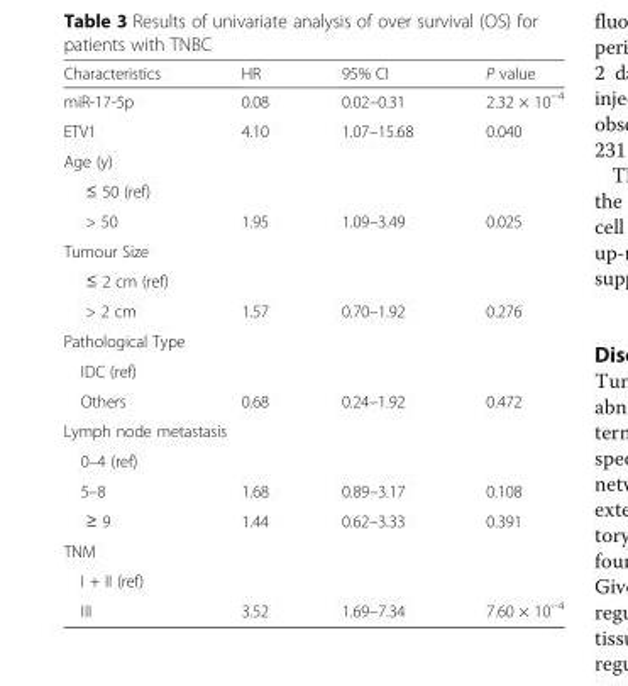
<table><thead><tr><td>Characteristics</td><td>HR</td><td>95% CI</td><td>P value</td></tr></thead><tbody><tr><td>miR-17-5p</td><td>0.08</td><td>0.02–0.31</td><td>2.32 × 10<sup>−4</sup></td></tr><tr><td>ETV1</td><td>4.10</td><td>1.07–15.68</td><td>0.040</td></tr><tr><td colspan="4">Age (y)</td></tr><tr><td colspan="4">≤ 50 (ref)</td></tr><tr><td>&gt; 50</td><td>1.95</td><td>1.09–3.49</td><td>0.025</td></tr><tr><td colspan="4">Tumour Size</td></tr><tr><td colspan="4">≤ 2 cm (ref)</td></tr><tr><td>&gt; 2 cm</td><td>1.57</td><td>0.70–1.92</td><td>0.276</td></tr><tr><td colspan="4">Pathological Type</td></tr><tr><td colspan="4">IDC (ref)</td></tr><tr><td>Others</td><td>0.68</td><td>0.24–1.92</td><td>0.472</td></tr><tr><td colspan="4">Lymph node metastasis</td></tr><tr><td colspan="4">0–4 (ref)</td></tr><tr><td>5–8</td><td>1.68</td><td>0.89–3.17</td><td>0.108</td></tr><tr><td>≥ 9</td><td>1.44</td><td>0.62–3.33</td><td>0.391</td></tr><tr><td colspan="4">TNM</td></tr><tr><td colspan="4">I + II (ref)</td></tr><tr><td>III</td><td>3.52</td><td>1.69–7.34</td><td>7.60 × 10<sup>−4</sup></td></tr></tbody></table>